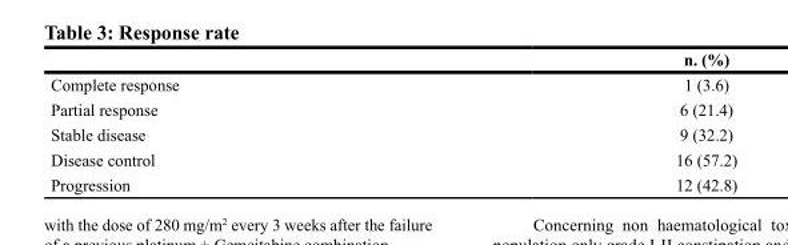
<table><thead><tr><td></td><td>n. (%)</td></tr></thead><tbody><tr><td>Complete response</td><td>1 (3.6)</td></tr><tr><td>Partial response</td><td>6 (21.4)</td></tr><tr><td>Stable disease</td><td>9 (32.2)</td></tr><tr><td>Disease control</td><td>16 (57.2)</td></tr><tr><td>Progression</td><td>12 (42.8)</td></tr></tbody></table>